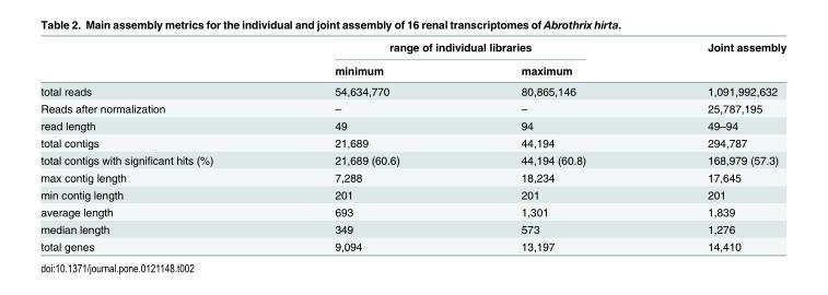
<table><thead><tr><td rowspan="2"></td><td colspan="2">range of individual libraries</td><td rowspan="2">Joint assembly</td></tr><tr><td>minimum</td><td>maximum</td></tr></thead><tbody><tr><td>total reads</td><td>54,634,770</td><td>80,865,146</td><td>1,091,992,632</td></tr><tr><td>Reads after normalization</td><td>–</td><td>–</td><td>25,787,195</td></tr><tr><td>read length</td><td>49</td><td>94</td><td>49–94</td></tr><tr><td>total contigs</td><td>21,689</td><td>44,194</td><td>294,787</td></tr><tr><td>total contigs with significant hits (%)</td><td>21,689 (60.6)</td><td>44,194 (60.8)</td><td>168,979 (57.3)</td></tr><tr><td>max contig length</td><td>7,288</td><td>18,234</td><td>17,645</td></tr><tr><td>min contig length</td><td>201</td><td>201</td><td>201</td></tr><tr><td>average length</td><td>693</td><td>1,301</td><td>1,839</td></tr><tr><td>median length</td><td>349</td><td>573</td><td>1,276</td></tr><tr><td>total genes</td><td>9,094</td><td>13,197</td><td>14,410</td></tr></tbody></table>